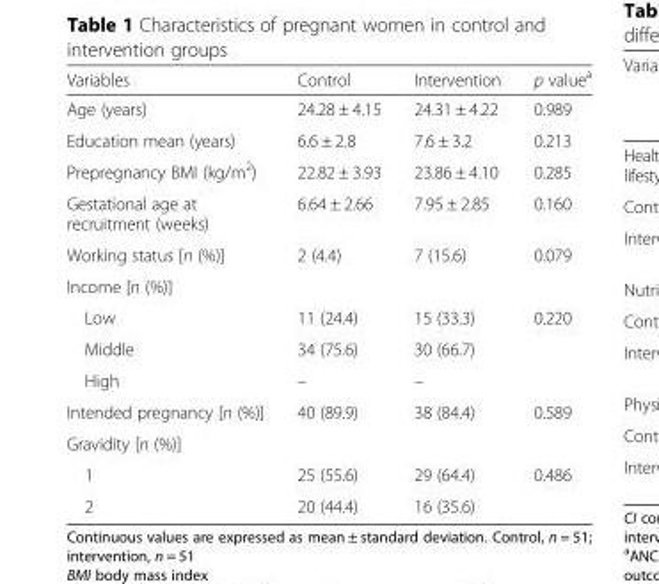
<table><thead><tr><td>Variables</td><td>Control</td><td>Intervention</td><td>p value<sup>a</sup></td></tr></thead><tbody><tr><td>Age (years)</td><td>24.28 ± 4.15</td><td>24.31 ± 4.22</td><td>0.989</td></tr><tr><td>Education mean (years)</td><td>6.6 ± 2.8</td><td>7.6 ± 3.2</td><td>0.213</td></tr><tr><td>Prepregnancy BMI (kg/m<sup>2</sup>)</td><td>22.82 ± 3.93</td><td>23.86 ± 4.10</td><td>0.285</td></tr><tr><td>Gestational age at recruitment (weeks)</td><td>6.64 ± 2.66</td><td>7.95 ± 2.85</td><td>0.160</td></tr><tr><td>Working status [n (%)]</td><td>2 (4.4)</td><td>7 (15.6)</td><td>0.079</td></tr><tr><td colspan="4">Income [n (%)]</td></tr><tr><td>Low</td><td>11 (24.4)</td><td>15 (33.3)</td><td>0.220</td></tr><tr><td>Middle</td><td>34 (75.6)</td><td>30 (66.7)</td><td></td></tr><tr><td>High</td><td>–</td><td>–</td><td></td></tr><tr><td>Intended pregnancy [n (%)]</td><td>40 (89.9)</td><td>38 (84.4)</td><td>0.589</td></tr><tr><td colspan="4">Gravidity [n (%)]</td></tr><tr><td>1</td><td>25 (55.6)</td><td>29 (64.4)</td><td>0.486</td></tr><tr><td>2</td><td>20 (44.4)</td><td>16 (35.6)</td><td></td></tr></tbody></table>